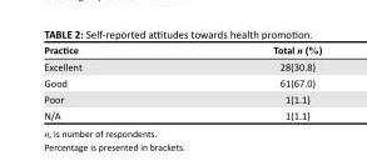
<table><thead><tr><td>Practice</td><td>Total n (%)</td></tr></thead><tbody><tr><td>Excellent</td><td>28(30.8)</td></tr><tr><td>Good</td><td>61(67.0)</td></tr><tr><td>Poor</td><td>1(1.1)</td></tr><tr><td>N/A</td><td>1(1.1)</td></tr></tbody></table>